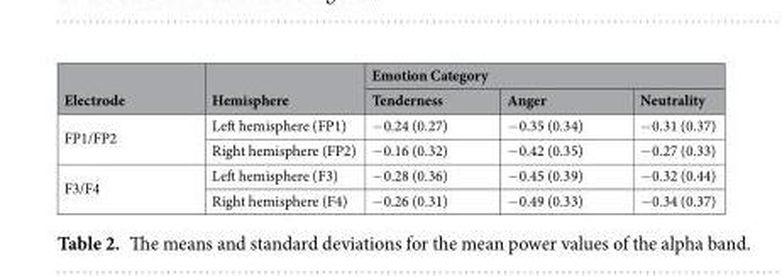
<table><thead><tr><td rowspan="2">Electrode</td><td rowspan="2">Hemisphere</td><td colspan="3">Emotion Category</td></tr><tr><td>Tenderness</td><td>Anger</td><td>Neutrality</td></tr></thead><tbody><tr><td rowspan="2">FP1/FP2</td><td>Left hemisphere (FP1)</td><td>−0.24 (0.27)</td><td>−0.35 (0.34)</td><td>−0.31 (0.37)</td></tr><tr><td>Right hemisphere (FP2)</td><td>−0.16 (0.32)</td><td>−0.42 (0.35)</td><td>−0.27 (0.33)</td></tr><tr><td rowspan="2">F3/F4</td><td>Left hemisphere (F3)</td><td>−0.28 (0.36)</td><td>−0.45 (0.39)</td><td>−0.32 (0.44)</td></tr><tr><td>Right hemisphere (F4)</td><td>−0.26 (0.31)</td><td>−0.49 (0.33)</td><td>−0.34 (0.37)</td></tr></tbody></table>